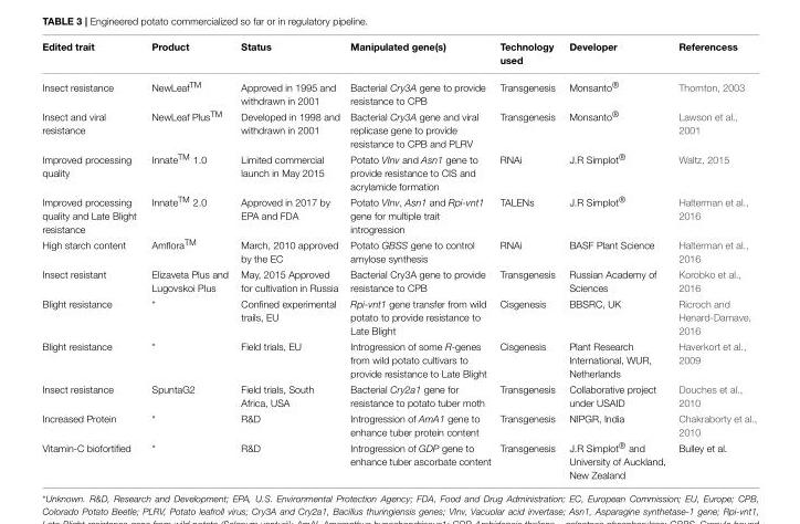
<table><thead><tr><td>Edited trait</td><td>Product</td><td>Status</td><td>Manipulated gene(s)</td><td>Technology used</td><td>Developer</td><td>Referencess</td></tr></thead><tbody><tr><td>Insect resistance</td><td>NewLeaf<sup>TM</sup></td><td>Approved in 1995 and withdrawn in 2001</td><td>Bacterial Cry3A gene to provide resistance to CPB</td><td>Transgenesis</td><td>Monsanto®</td><td>Thornton, 2003</td></tr><tr><td>Insect and viral resistance</td><td>NewLeaf Plus<sup>TM</sup></td><td>Developed in 1998 and withdrawn in 2001</td><td>Bacterial Cry3A gene and viral replicase gene to provide resistance to CPB and PLRV</td><td>Transgenesis</td><td>Monsanto®</td><td>Lawson et al., 2001</td></tr><tr><td>Improved processing quality</td><td>Innate<sup>TM</sup> 1.0</td><td>Limited commercial launch in May 2015</td><td>Potato VInv and Asn1 gene to provide resistance to CIS and acrylamide formation</td><td>RNAi</td><td>J.R Simplot®</td><td>Waltz, 2015</td></tr><tr><td>Improved processing quality and Late Blight resistance</td><td>Innate<sup>TM</sup> 2.0</td><td>Approved in 2017 by EPA and FDA</td><td>Potato VInv, Asn1 and Rpi-vnt1 gene for multiple trait introgression</td><td>TALENs</td><td>J.R Simplot®</td><td>Halterman et al., 2016</td></tr><tr><td>High starch content</td><td>Amflora<sup>TM</sup></td><td>March, 2010 approved by the EC</td><td>Potato GBSS gene to control amylose synthesis</td><td>RNAi</td><td>BASF Plant Science</td><td>Halterman et al., 2016</td></tr><tr><td>Insect resistant</td><td>Elizaveta Plus and Lugovskoi Plus</td><td>May, 2015 Approved for cultivation in Russia</td><td>Bacterial Cry3A gene to provide resistance to CPB</td><td>Transgenesis</td><td>Russian Academy of Sciences</td><td>Korobko et al., 2016</td></tr><tr><td>Blight resistance</td><td>*</td><td>Confined experimental trails, EU</td><td>Rpi-vnt1 gene transfer from wild potato to provide resistance to Late Blight</td><td>Cisgenesis</td><td>BBSRC, UK</td><td>Ricroch and Henard-Damave, 2016</td></tr><tr><td>Blight resistance</td><td>*</td><td>Field trials, EU</td><td>Introgression of some R-genes from wild potato cultivars to provide resistance to Late Blight</td><td>Cisgenesis</td><td>Plant Research International, WUR, Netherlands</td><td>Haverkort et al., 2009</td></tr><tr><td>Insect resistance</td><td>SpuntaG2</td><td>Field trials, South Africa, USA</td><td>Bacterial Cry2a1 gene for resistance to potato tuber moth</td><td>Transgenesis</td><td>Collaborative project under USAID</td><td>Douches et al., 2010</td></tr><tr><td>Increased Protein</td><td>*</td><td>R&amp;D</td><td>Introgression of AmA1 gene to enhance tuber protein content</td><td>Transgenesis</td><td>NIPGR, India</td><td>Chakraborty et al., 2010</td></tr><tr><td>Vitamin-C biofortified</td><td>*</td><td>R&amp;D</td><td>Introgression of GDP gene to enhance tuber ascorbate content</td><td>Transgenesis</td><td>J.R Simplot® and University of Auckland, New Zealand</td><td>Bulley et al.</td></tr></tbody></table>